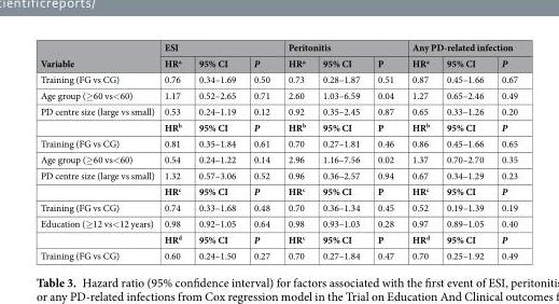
<table><thead><tr><td rowspan="2">Variable</td><td colspan="3">ESI</td><td colspan="3">Peritonitis</td><td colspan="3">Any PD-related infection</td></tr><tr><td>HR<sup>a</sup></td><td>95% CI</td><td>P</td><td>HR<sup>a</sup></td><td>95% CI</td><td>P</td><td>HR<sup>a</sup></td><td>95% CI</td><td>P</td></tr></thead><tbody><tr><td>Training (FG vs CG)</td><td>0.76</td><td>0.34–1.69</td><td>0.50</td><td>0.73</td><td>0.28–1.87</td><td>0.51</td><td>0.87</td><td>0.45–1.66</td><td>0.67</td></tr><tr><td>Age group (≥60 vs&lt;60)</td><td>1.17</td><td>0.52–2.65</td><td>0.71</td><td>2.60</td><td>1.03–6.59</td><td>0.04</td><td>1.27</td><td>0.65–2.46</td><td>0.49</td></tr><tr><td rowspan="2">PD centre size (large vs small)</td><td>0.53</td><td>0.24–1.19</td><td>0.12</td><td>0.92</td><td>0.35–2.45</td><td>0.87</td><td>0.65</td><td>0.33–1.26</td><td>0.20</td></tr><tr><td>HR<sup>b</sup></td><td>95% CI</td><td>P</td><td>HR<sup>b</sup></td><td>95% CI</td><td>P</td><td>HR<sup>b</sup></td><td>95% CI</td><td>P</td></tr><tr><td>Training (FG vs CG)</td><td>0.81</td><td>0.35–1.84</td><td>0.61</td><td>0.70</td><td>0.27–1.81</td><td>0.46</td><td>0.86</td><td>0.45–1.66</td><td>0.65</td></tr><tr><td>Age group (≥60 vs&lt;60)</td><td>0.54</td><td>0.24–1.22</td><td>0.14</td><td>2.96</td><td>1.16–7.56</td><td>0.02</td><td>1.37</td><td>0.70–2.70</td><td>0.35</td></tr><tr><td rowspan="2">PD centre size (large vs small)</td><td>1.32</td><td>0.57–3.06</td><td>0.52</td><td>0.96</td><td>0.36–2.57</td><td>0.94</td><td>0.67</td><td>0.34–1.29</td><td>0.23</td></tr><tr><td>HR<sup>c</sup></td><td>95% CI</td><td>P</td><td>HR<sup>c</sup></td><td>95% CI</td><td>P</td><td>HR<sup>c</sup></td><td>95% CI</td><td>P</td></tr><tr><td>Training (FG vs CG)</td><td>0.74</td><td>0.33–1.68</td><td>0.48</td><td>0.70</td><td>0.36–1.34</td><td>0.45</td><td>0.52</td><td>0.19–1.39</td><td>0.19</td></tr><tr><td rowspan="2">Education (≥12 vs&lt;12 years)</td><td>0.98</td><td>0.92–1.05</td><td>0.64</td><td>0.98</td><td>0.93–1.03</td><td>0.28</td><td>0.97</td><td>0.89–1.05</td><td>0.40</td></tr><tr><td>HR<sup>d</sup></td><td>95% CI</td><td>P</td><td>HR<sup>c</sup></td><td>95% CI</td><td>P</td><td>HR<sup>d</sup></td><td>95% CI</td><td>P</td></tr><tr><td>Training (FG vs CG)</td><td>0.60</td><td>0.24–1.50</td><td>0.27</td><td>0.70</td><td>0.27–1.84</td><td>0.47</td><td>0.70</td><td>0.25–1.92</td><td>0.49</td></tr></tbody></table>